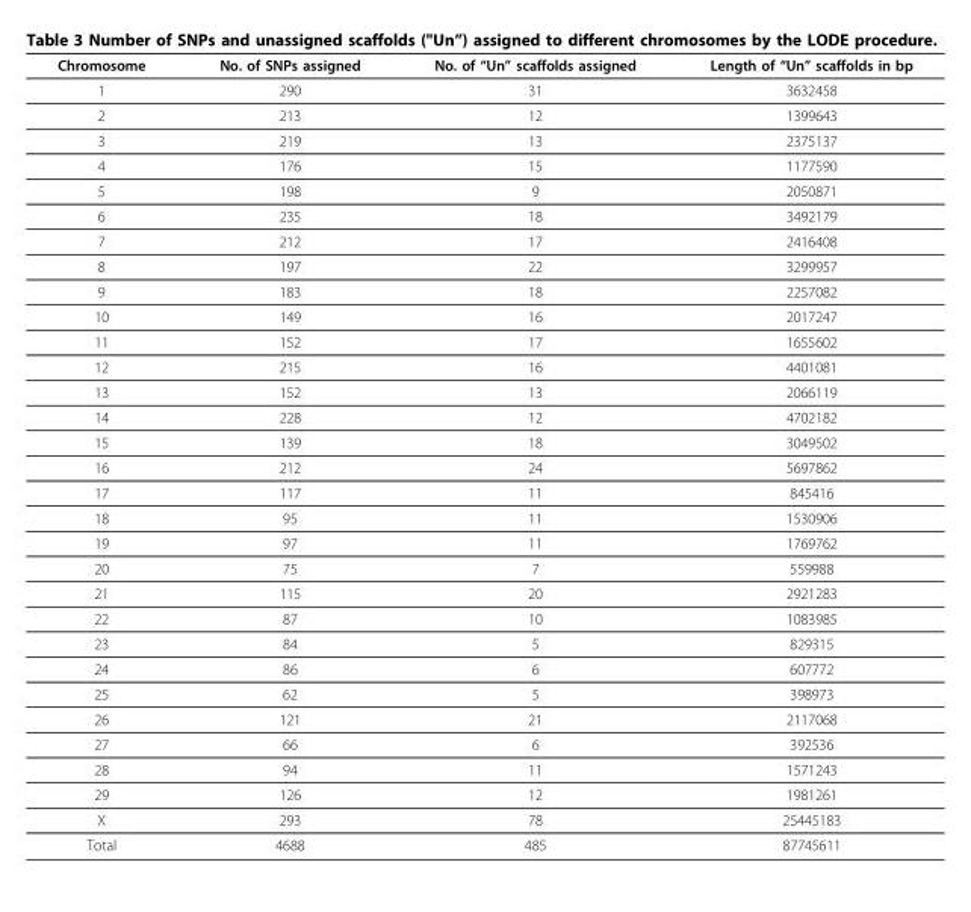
<table><thead><tr><td>Chromosome</td><td>No. of SNPs assigned</td><td>No. of “Un” scaffolds assigned</td><td>Length of “Un” scaffolds in bp</td></tr></thead><tbody><tr><td>1</td><td>290</td><td>31</td><td>3632458</td></tr><tr><td>2</td><td>213</td><td>12</td><td>1399643</td></tr><tr><td>3</td><td>219</td><td>13</td><td>2375137</td></tr><tr><td>4</td><td>176</td><td>15</td><td>1177590</td></tr><tr><td>5</td><td>198</td><td>9</td><td>2050871</td></tr><tr><td>6</td><td>235</td><td>18</td><td>3492179</td></tr><tr><td>7</td><td>212</td><td>17</td><td>2416408</td></tr><tr><td>8</td><td>197</td><td>22</td><td>3299957</td></tr><tr><td>9</td><td>183</td><td>18</td><td>2257082</td></tr><tr><td>10</td><td>149</td><td>16</td><td>2017247</td></tr><tr><td>11</td><td>152</td><td>17</td><td>1655602</td></tr><tr><td>12</td><td>215</td><td>16</td><td>4401081</td></tr><tr><td>13</td><td>152</td><td>13</td><td>2066119</td></tr><tr><td>14</td><td>228</td><td>12</td><td>4702182</td></tr><tr><td>15</td><td>139</td><td>18</td><td>3049502</td></tr><tr><td>16</td><td>212</td><td>24</td><td>5697862</td></tr><tr><td>17</td><td>117</td><td>11</td><td>845416</td></tr><tr><td>18</td><td>95</td><td>11</td><td>1530906</td></tr><tr><td>19</td><td>97</td><td>11</td><td>1769762</td></tr><tr><td>20</td><td>75</td><td>7</td><td>559988</td></tr><tr><td>21</td><td>115</td><td>20</td><td>2921283</td></tr><tr><td>22</td><td>87</td><td>10</td><td>1083985</td></tr><tr><td>23</td><td>84</td><td>5</td><td>829315</td></tr><tr><td>24</td><td>86</td><td>6</td><td>607772</td></tr><tr><td>25</td><td>62</td><td>5</td><td>398973</td></tr><tr><td>26</td><td>121</td><td>21</td><td>2117068</td></tr><tr><td>27</td><td>66</td><td>6</td><td>392536</td></tr><tr><td>28</td><td>94</td><td>11</td><td>1571243</td></tr><tr><td>29</td><td>126</td><td>12</td><td>1981261</td></tr><tr><td>X</td><td>293</td><td>78</td><td>25445183</td></tr><tr><td>Total</td><td>4688</td><td>485</td><td>87745611</td></tr></tbody></table>